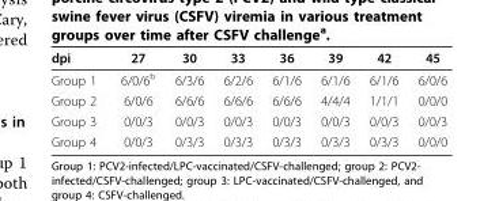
<table><thead><tr><td>dpi</td><td>27</td><td>30</td><td>33</td><td>36</td><td>39</td><td>42</td><td>45</td></tr></thead><tbody><tr><td>Group 1</td><td>6/0/6<sup>b</sup></td><td>6/3/6</td><td>6/2/6</td><td>6/1/6</td><td>6/1/6</td><td>6/1/6</td><td>6/0/6</td></tr><tr><td>Group 2</td><td>6/0/6</td><td>6/6/6</td><td>6/6/6</td><td>6/6/6</td><td>4/4/4</td><td>1/1/1</td><td>0/0/0</td></tr><tr><td>Group 3</td><td>0/0/3</td><td>0/0/3</td><td>0/0/3</td><td>0/0/3</td><td>0/0/3</td><td>0/0/3</td><td>0/0/3</td></tr><tr><td>Group 4</td><td>0/0/3</td><td>0/3/3</td><td>0/3/3</td><td>0/3/3</td><td>0/3/3</td><td>0/3/3</td><td>0/0/0</td></tr></tbody></table>